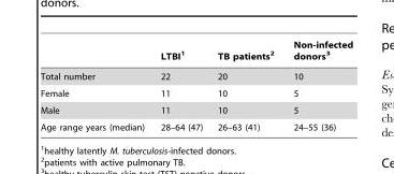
<table><thead><tr><td></td><td>LTBI<sup>1</sup></td><td>TB patients<sup>2</sup></td><td>Non-infected donors<sup>3</sup></td></tr></thead><tbody><tr><td>Total number</td><td>22</td><td>20</td><td>10</td></tr><tr><td>Female</td><td>11</td><td>10</td><td>5</td></tr><tr><td>Male</td><td>11</td><td>10</td><td>5</td></tr><tr><td>Age range years (median)</td><td>28–64 (47)</td><td>26–63 (41)</td><td>24–55 (36)</td></tr></tbody></table>